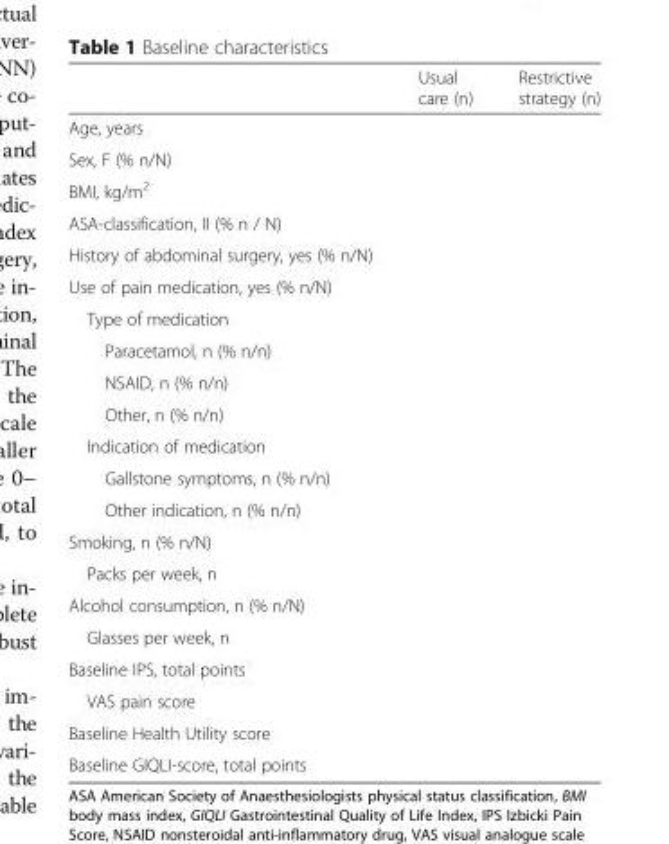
<table><thead><tr><td></td><td>Usual care (n)</td><td>Restrictive strategy (n)</td></tr></thead><tbody><tr><td colspan="3">Age, years</td></tr><tr><td colspan="3">Sex, F (% n/N)</td></tr><tr><td colspan="3">BMI, kg/m<sup>2</sup></td></tr><tr><td colspan="3">ASA-classification, II (% n / N)</td></tr><tr><td colspan="3">History of abdominal surgery, yes (% n/N)</td></tr><tr><td colspan="3">Use of pain medication, yes (% n/N)</td></tr><tr><td colspan="3">Type of medication</td></tr><tr><td colspan="3">Paracetamol, n (% n/n)</td></tr><tr><td colspan="3">NSAID, n (% n/n)</td></tr><tr><td colspan="3">Other, n (% n/n)</td></tr><tr><td colspan="3">Indication of medication</td></tr><tr><td colspan="3">Gallstone symptoms, n (% n/n)</td></tr><tr><td colspan="3">Other indication, n (% n/n)</td></tr><tr><td colspan="3">Smoking, n (% n/N)</td></tr><tr><td colspan="3">Packs per week, n</td></tr><tr><td colspan="3">Alcohol consumption, n (% n/N)</td></tr><tr><td colspan="3">Glasses per week, n</td></tr><tr><td colspan="3">Baseline IPS, total points</td></tr><tr><td colspan="3">VAS pain score</td></tr><tr><td colspan="3">Baseline Health Utility score</td></tr><tr><td>Baseline GIQLI-score, total points</td><td></td><td></td></tr></tbody></table>